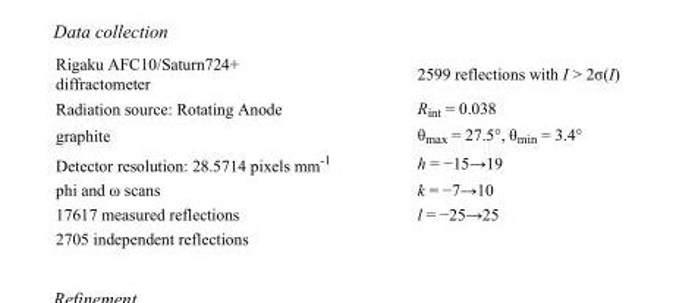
<table><tbody><tr><td>Rigaku AFC10/Saturn724+ diffractometer</td><td>2599 reflections with I &gt; 2σ(I)</td></tr><tr><td>Radiation source: Rotating Anode</td><td>R<sub>int</sub> = 0.038</td></tr><tr><td>graphite</td><td>θ<sub>max</sub> = 27.5°, θ<sub>min</sub> = 3.4°</td></tr><tr><td>Detector resolution: 28.5714 pixels mm<sup>-1</sup></td><td>h = −15→19</td></tr><tr><td>phi and ω scans</td><td>k = −7→10</td></tr><tr><td>17617 measured reflections</td><td>l = −25→25</td></tr><tr><td>2705 independent reflections</td><td></td></tr></tbody></table>